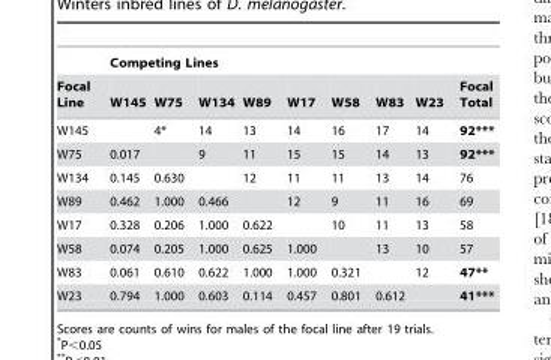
<table><thead><tr><td rowspan="2">Focal Line</td><td colspan="9">Competing Lines</td></tr><tr><td>W145</td><td>W75</td><td>W134</td><td>W89</td><td>W17</td><td>W58</td><td>W83</td><td>W23</td><td>Focal Total</td></tr></thead><tbody><tr><td>W145</td><td></td><td>4*</td><td>14</td><td>13</td><td>14</td><td>16</td><td>17</td><td>14</td><td>92***</td></tr><tr><td>W75</td><td>0.017</td><td></td><td>9</td><td>11</td><td>15</td><td>15</td><td>14</td><td>13</td><td>92***</td></tr><tr><td>W134</td><td>0.145</td><td>0.630</td><td></td><td>12</td><td>11</td><td>11</td><td>13</td><td>14</td><td>76</td></tr><tr><td>W89</td><td>0.462</td><td>1.000</td><td>0.466</td><td></td><td>12</td><td>9</td><td>11</td><td>16</td><td>69</td></tr><tr><td>W17</td><td>0.328</td><td>0.206</td><td>1.000</td><td>0.622</td><td></td><td>10</td><td>11</td><td>13</td><td>58</td></tr><tr><td>W58</td><td>0.074</td><td>0.205</td><td>1.000</td><td>0.625</td><td>1.000</td><td></td><td>13</td><td>10</td><td>57</td></tr><tr><td>W83</td><td>0.061</td><td>0.610</td><td>0.622</td><td>1.000</td><td>1.000</td><td>0.321</td><td></td><td>12</td><td>47**</td></tr><tr><td>W23</td><td>0.794</td><td>1.000</td><td>0.603</td><td>0.114</td><td>0.457</td><td>0.801</td><td>0.612</td><td></td><td>41***</td></tr></tbody></table>